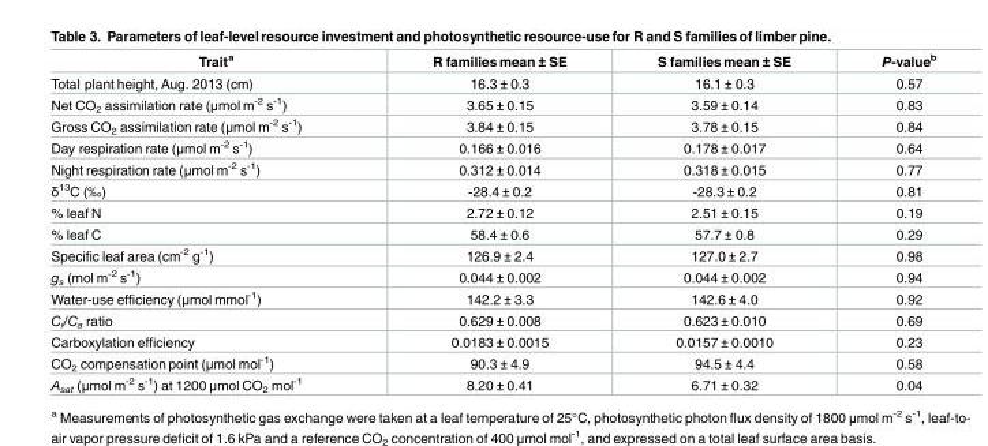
<table><thead><tr><td>Trait<sup>a</sup></td><td>R families mean ± SE</td><td>S families mean ± SE</td><td>P-value<sup>b</sup></td></tr></thead><tbody><tr><td>Total plant height, Aug. 2013 (cm)</td><td>16.3 ± 0.3</td><td>16.1 ± 0.3</td><td>0.57</td></tr><tr><td>Net CO<sub>2</sub> assimilation rate (μmol m<sup>-2</sup> s<sup>-1</sup>)</td><td>3.65 ± 0.15</td><td>3.59 ± 0.14</td><td>0.83</td></tr><tr><td>Gross CO<sub>2</sub> assimilation rate (μmol m<sup>-2</sup> s<sup>-1</sup>)</td><td>3.84 ± 0.15</td><td>3.78 ± 0.15</td><td>0.84</td></tr><tr><td>Day respiration rate (μmol m<sup>-2</sup> s<sup>-1</sup>)</td><td>0.166 ± 0.016</td><td>0.178 ± 0.017</td><td>0.64</td></tr><tr><td>Night respiration rate (μmol m<sup>-2</sup> s<sup>-1</sup>)</td><td>0.312 ± 0.014</td><td>0.318 ± 0.015</td><td>0.77</td></tr><tr><td>δ<sup>13</sup>C (‰)</td><td>-28.4 ± 0.2</td><td>-28.3 ± 0.2</td><td>0.81</td></tr><tr><td>% leaf N</td><td>2.72 ± 0.12</td><td>2.51 ± 0.15</td><td>0.19</td></tr><tr><td>% leaf C</td><td>58.4 ± 0.6</td><td>57.7 ± 0.8</td><td>0.29</td></tr><tr><td>Specific leaf area (cm<sup>-2</sup> g<sup>-1</sup>)</td><td>126.9 ± 2.4</td><td>127.0 ± 2.7</td><td>0.98</td></tr><tr><td>g<sub>s</sub> (mol m<sup>-2</sup> s<sup>-1</sup>)</td><td>0.044 ± 0.002</td><td>0.044 ± 0.002</td><td>0.94</td></tr><tr><td>Water-use efficiency (μmol mmol<sup>-1</sup>)</td><td>142.2 ± 3.3</td><td>142.6 ± 4.0</td><td>0.92</td></tr><tr><td>C<sub>i</sub>/C<sub>a</sub> ratio</td><td>0.629 ± 0.008</td><td>0.623 ± 0.010</td><td>0.69</td></tr><tr><td>Carboxylation efficiency</td><td>0.0183 ± 0.0015</td><td>0.0157 ± 0.0010</td><td>0.23</td></tr><tr><td>CO<sub>2</sub> compensation point (μmol mol<sup>-1</sup>)</td><td>90.3 ± 4.9</td><td>94.5 ± 4.4</td><td>0.58</td></tr><tr><td>A<sub>sat</sub> (μmol m<sup>-2</sup> s<sup>-1</sup>) at 1200 μmol CO<sub>2</sub> mol<sup>-1</sup></td><td>8.20 ± 0.41</td><td>6.71 ± 0.32</td><td>0.04</td></tr></tbody></table>